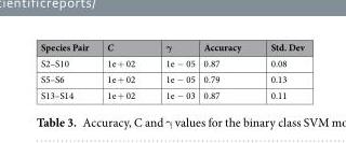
<table><thead><tr><td>Species Pair</td><td>C</td><td>γ</td><td>Accuracy</td><td>Std. Dev</td></tr></thead><tbody><tr><td>S2–S10</td><td>1e + 02</td><td>1e − 05</td><td>0.87</td><td>0.08</td></tr><tr><td>S5–S6</td><td>1e + 02</td><td>1e − 05</td><td>0.79</td><td>0.13</td></tr><tr><td>S13–S14</td><td>1e + 02</td><td>1e − 03</td><td>0.87</td><td>0.11</td></tr></tbody></table>